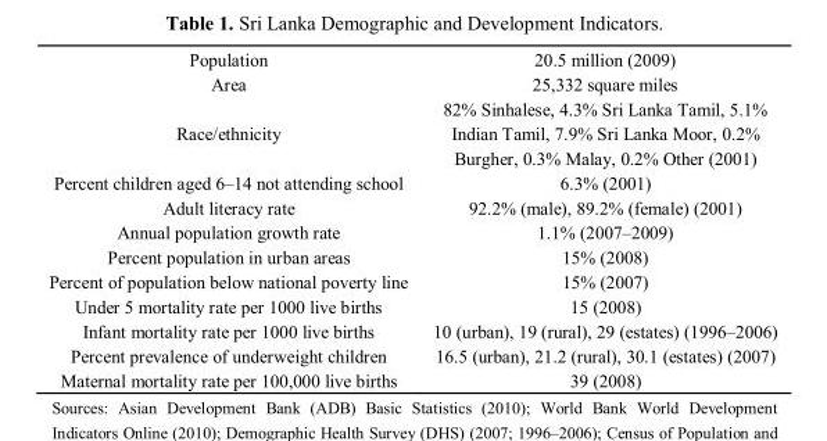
<table><tbody><tr><td>Population</td><td>20.5 million (2009)</td></tr><tr><td>Area</td><td>25,332 square miles</td></tr><tr><td>Race/ethnicity</td><td>82% Sinhalese, 4.3% Sri Lanka Tamil, 5.1% Indian Tamil, 7.9% Sri Lanka Moor, 0.2% Burgher, 0.3% Malay, 0.2% Other (2001)</td></tr><tr><td>Percent children aged 6–14 not attending school</td><td>6.3% (2001)</td></tr><tr><td>Adult literacy rate</td><td>92.2% (male), 89.2% (female) (2001)</td></tr><tr><td>Annual population growth rate</td><td>1.1% (2007–2009)</td></tr><tr><td>Percent population in urban areas</td><td>15% (2008)</td></tr><tr><td>Percent of population below national poverty line</td><td>15% (2007)</td></tr><tr><td>Under 5 mortality rate per 1000 live births</td><td>15 (2008)</td></tr><tr><td>Infant mortality rate per 1000 live births</td><td>10 (urban), 19 (rural), 29 (estates) (1996–2006)</td></tr><tr><td>Percent prevalence of underweight children</td><td>16.5 (urban), 21.2 (rural), 30.1 (estates) (2007)</td></tr><tr><td>Maternal mortality rate per 100,000 live births</td><td>39 (2008)</td></tr></tbody></table>